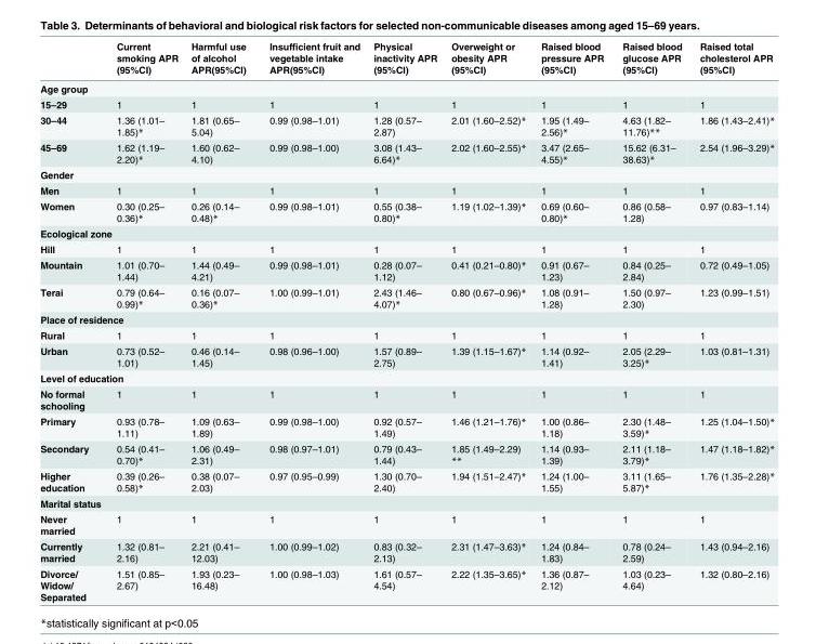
<table><thead><tr><td></td><td>Current smoking APR (95%CI)</td><td>Harmful use of alcohol APR(95%CI)</td><td>Insufficient fruit and vegetable intake APR(95%CI)</td><td>Physical inactivity APR (95%CI)</td><td>Overweight or obesity APR (95%CI)</td><td>Raised blood pressure APR (95%CI)</td><td>Raised blood glucose APR (95%CI)</td><td>Raised total cholesterol APR (95%CI)</td></tr></thead><tbody><tr><td colspan="9">Age group</td></tr><tr><td>15–29</td><td>1</td><td>1</td><td>1</td><td>1</td><td>1</td><td>1</td><td>1</td><td>1</td></tr><tr><td>30–44</td><td>1.36 (1.01– 1.85)*</td><td>1.81 (0.65– 5.04)</td><td>0.99 (0.98–1.01)</td><td>1.28 (0.57– 2.87)</td><td>2.01 (1.60–2.52)*</td><td>1.95 (1.49– 2.56)*</td><td>4.63 (1.82– 11.76)**</td><td>1.86 (1.43–2.41)*</td></tr><tr><td>45–69</td><td>1.62 (1.19– 2.20)*</td><td>1.60 (0.62– 4.10)</td><td>0.99 (0.98–1.00)</td><td>3.08 (1.43– 6.64)*</td><td>2.02 (1.60–2.55)*</td><td>3.47 (2.65– 4.55)*</td><td>15.62 (6.31– 38.63)*</td><td>2.54 (1.96–3.29)*</td></tr><tr><td colspan="9">Gender</td></tr><tr><td>Men</td><td>1</td><td>1</td><td>1</td><td>1</td><td>1</td><td>1</td><td>1</td><td>1</td></tr><tr><td>Women</td><td>0.30 (0.25– 0.36)*</td><td>0.26 (0.14– 0.48)*</td><td>0.99 (0.98–1.01)</td><td>0.55 (0.38– 0.80)*</td><td>1.19 (1.02–1.39)*</td><td>0.69 (0.60– 0.80)*</td><td>0.86 (0.58– 1.28)</td><td>0.97 (0.83–1.14)</td></tr><tr><td colspan="9">Ecological zone</td></tr><tr><td>Hill</td><td>1</td><td>1</td><td>1</td><td>1</td><td>1</td><td>1</td><td>1</td><td>1</td></tr><tr><td>Mountain</td><td>1.01 (0.70– 1.44)</td><td>1.44 (0.49– 4.21)</td><td>0.99 (0.98–1.01)</td><td>0.28 (0.07– 1.12)</td><td>0.41 (0.21–0.80)*</td><td>0.91 (0.67– 1.23)</td><td>0.84 (0.25– 2.84)</td><td>0.72 (0.49–1.05)</td></tr><tr><td>Terai</td><td>0.79 (0.64– 0.99)*</td><td>0.16 (0.07– 0.36)*</td><td>1.00 (0.99–1.01)</td><td>2.43 (1.46– 4.07)*</td><td>0.80 (0.67–0.96)*</td><td>1.08 (0.91– 1.28)</td><td>1.50 (0.97– 2.30)</td><td>1.23 (0.99–1.51)</td></tr><tr><td colspan="9">Place of residence</td></tr><tr><td>Rural</td><td>1</td><td>1</td><td>1</td><td>1</td><td>1</td><td>1</td><td>1</td><td>1</td></tr><tr><td>Urban</td><td>0.73 (0.52– 1.01)</td><td>0.46 (0.14– 1.45)</td><td>0.98 (0.96–1.00)</td><td>1.57 (0.89– 2.75)</td><td>1.39 (1.15–1.67)*</td><td>1.14 (0.92– 1.41)</td><td>2.05 (2.29– 3.25)*</td><td>1.03 (0.81–1.31)</td></tr><tr><td colspan="9">Level of education</td></tr><tr><td>No formal schooling</td><td>1</td><td>1</td><td>1</td><td>1</td><td>1</td><td>1</td><td>1</td><td>1</td></tr><tr><td>Primary</td><td>0.93 (0.78– 1.11)</td><td>1.09 (0.63– 1.89)</td><td>0.99 (0.98–1.00)</td><td>0.92 (0.57– 1.49)</td><td>1.46 (1.21–1.76)*</td><td>1.00 (0.86– 1.18)</td><td>2.30 (1.48– 3.59)*</td><td>1.25 (1.04–1.50)*</td></tr><tr><td>Secondary</td><td>0.54 (0.41– 0.70)*</td><td>1.06 (0.49– 2.31)</td><td>0.98 (0.97–1.01)</td><td>0.79 (0.43– 1.44)</td><td>1.85 (1.49–2.29) **</td><td>1.14 (0.93– 1.39)</td><td>2.11 (1.18– 3.79)*</td><td>1.47 (1.18–1.82)*</td></tr><tr><td>Higher education</td><td>0.39 (0.26– 0.58)*</td><td>0.38 (0.07– 2.03)</td><td>0.97 (0.95–0.99)</td><td>1.30 (0.70– 2.40)</td><td>1.94 (1.51–2.47)*</td><td>1.24 (1.00– 1.55)</td><td>3.11 (1.65– 5.87)*</td><td>1.76 (1.35–2.28)*</td></tr><tr><td colspan="9">Marital status</td></tr><tr><td>Never married</td><td>1</td><td>1</td><td>1</td><td>1</td><td>1</td><td>1</td><td>1</td><td>1</td></tr><tr><td>Currently married</td><td>1.32 (0.81– 2.16)</td><td>2.21 (0.41– 12.03)</td><td>1.00 (0.99–1.02)</td><td>0.83 (0.32– 2.13)</td><td>2.31 (1.47–3.63)*</td><td>1.24 (0.84– 1.83)</td><td>0.78 (0.24– 2.59)</td><td>1.43 (0.94–2.16)</td></tr><tr><td>Divorce/ Widow/ Separated</td><td>1.51 (0.85– 2.67)</td><td>1.93 (0.23– 16.48)</td><td>1.00 (0.98–1.03)</td><td>1.61 (0.57– 4.54)</td><td>2.22 (1.35–3.65)*</td><td>1.36 (0.87– 2.12)</td><td>1.03 (0.23– 4.64)</td><td>1.32 (0.80–2.16)</td></tr></tbody></table>